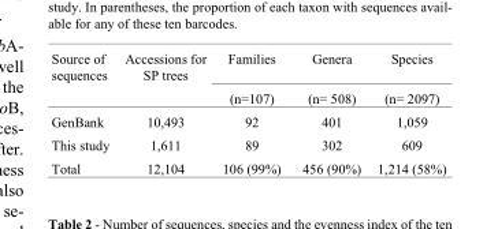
<table><thead><tr><td>Source of sequences</td><td>Accessions for SP trees</td><td>Families</td><td>Genera</td><td>Species</td></tr></thead><tbody><tr><td></td><td></td><td>(n=107)</td><td>(n= 508)</td><td>(n= 2097)</td></tr><tr><td>GenBank</td><td>10,493</td><td>92</td><td>401</td><td>1,059</td></tr><tr><td>This study</td><td>1,611</td><td>89</td><td>302</td><td>609</td></tr><tr><td>Total</td><td>12,104</td><td>106 (99%)</td><td>456 (90%)</td><td>1,214 (58%)</td></tr></tbody></table>